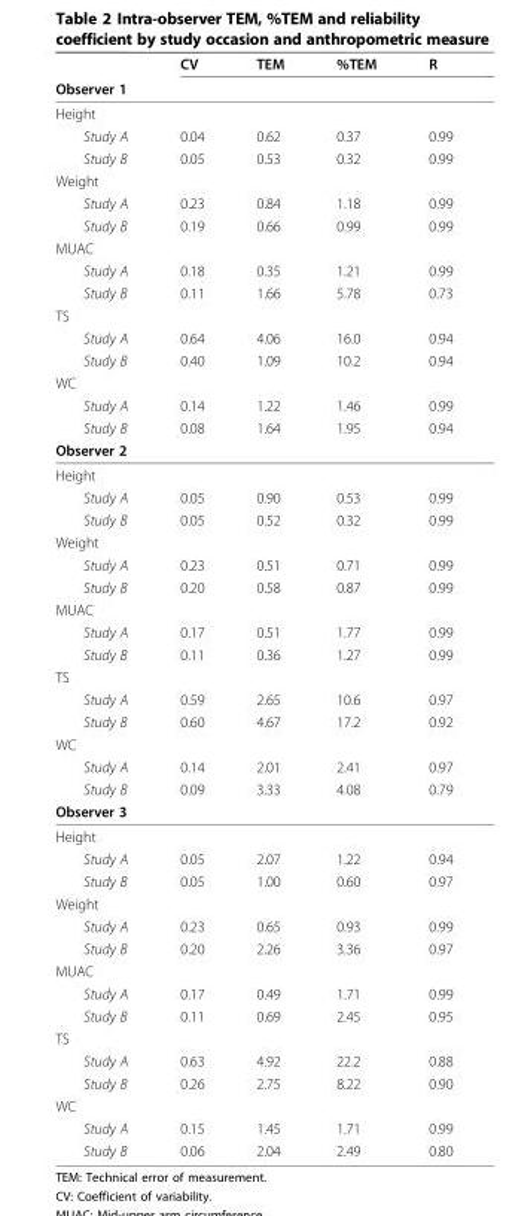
<table><thead><tr><td rowspan="2">Observer 1</td><td rowspan="2">CV</td><td rowspan="2">TEM</td><td rowspan="2">%TEM</td><td rowspan="2">R</td></tr><tr></tr></thead><tbody><tr><td colspan="5">Height</td></tr><tr><td>Study A</td><td>0.04</td><td>0.62</td><td>0.37</td><td>0.99</td></tr><tr><td>Study B</td><td>0.05</td><td>0.53</td><td>0.32</td><td>0.99</td></tr><tr><td colspan="5">Weight</td></tr><tr><td>Study A</td><td>0.23</td><td>0.84</td><td>1.18</td><td>0.99</td></tr><tr><td>Study B</td><td>0.19</td><td>0.66</td><td>0.99</td><td>0.99</td></tr><tr><td colspan="5">MUAC</td></tr><tr><td>Study A</td><td>0.18</td><td>0.35</td><td>1.21</td><td>0.99</td></tr><tr><td>Study B</td><td>0.11</td><td>1.66</td><td>5.78</td><td>0.73</td></tr><tr><td colspan="5">TS</td></tr><tr><td>Study A</td><td>0.64</td><td>4.06</td><td>16.0</td><td>0.94</td></tr><tr><td>Study B</td><td>0.40</td><td>1.09</td><td>10.2</td><td>0.94</td></tr><tr><td colspan="5">WC</td></tr><tr><td>Study A</td><td>0.14</td><td>1.22</td><td>1.46</td><td>0.99</td></tr><tr><td>Study B</td><td>0.08</td><td>1.64</td><td>1.95</td><td>0.94</td></tr><tr><td colspan="5">Observer 2</td></tr><tr><td colspan="5">Height</td></tr><tr><td>Study A</td><td>0.05</td><td>0.90</td><td>0.53</td><td>0.99</td></tr><tr><td>Study B</td><td>0.05</td><td>0.52</td><td>0.32</td><td>0.99</td></tr><tr><td colspan="5">Weight</td></tr><tr><td>Study A</td><td>0.23</td><td>0.51</td><td>0.71</td><td>0.99</td></tr><tr><td>Study B</td><td>0.20</td><td>0.58</td><td>0.87</td><td>0.99</td></tr><tr><td colspan="5">MUAC</td></tr><tr><td>Study A</td><td>0.17</td><td>0.51</td><td>1.77</td><td>0.99</td></tr><tr><td>Study B</td><td>0.11</td><td>0.36</td><td>1.27</td><td>0.99</td></tr><tr><td colspan="5">TS</td></tr><tr><td>Study A</td><td>0.59</td><td>2.65</td><td>10.6</td><td>0.97</td></tr><tr><td>Study B</td><td>0.60</td><td>4.67</td><td>17.2</td><td>0.92</td></tr><tr><td colspan="5">WC</td></tr><tr><td>Study A</td><td>0.14</td><td>2.01</td><td>2.41</td><td>0.97</td></tr><tr><td>Study B</td><td>0.09</td><td>3.33</td><td>4.08</td><td>0.79</td></tr><tr><td colspan="5">Observer 3</td></tr><tr><td colspan="5">Height</td></tr><tr><td>Study A</td><td>0.05</td><td>2.07</td><td>1.22</td><td>0.94</td></tr><tr><td>Study B</td><td>0.05</td><td>1.00</td><td>0.60</td><td>0.97</td></tr><tr><td colspan="5">Weight</td></tr><tr><td>Study A</td><td>0.23</td><td>0.65</td><td>0.93</td><td>0.99</td></tr><tr><td>Study B</td><td>0.20</td><td>2.26</td><td>3.36</td><td>0.97</td></tr><tr><td colspan="5">MUAC</td></tr><tr><td>Study A</td><td>0.17</td><td>0.49</td><td>1.71</td><td>0.99</td></tr><tr><td>Study B</td><td>0.11</td><td>0.69</td><td>2.45</td><td>0.95</td></tr><tr><td colspan="5">TS</td></tr><tr><td>Study A</td><td>0.63</td><td>4.92</td><td>22.2</td><td>0.88</td></tr><tr><td>Study B</td><td>0.26</td><td>2.75</td><td>8.22</td><td>0.90</td></tr><tr><td colspan="5">WC</td></tr><tr><td>Study A</td><td>0.15</td><td>1.45</td><td>1.71</td><td>0.99</td></tr><tr><td>Study B</td><td>0.06</td><td>2.04</td><td>2.49</td><td>0.80</td></tr></tbody></table>